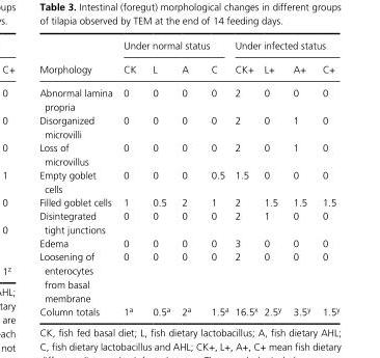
<table><thead><tr><td rowspan="2">Morphology</td><td colspan="4">Under normal status</td><td colspan="4">Under infected status</td></tr><tr><td>CK</td><td>L</td><td>A</td><td>C</td><td>CK+</td><td>L+</td><td>A+</td><td>C+</td></tr></thead><tbody><tr><td>Abnormal lamina propria</td><td>0</td><td>0</td><td>0</td><td>0</td><td>2</td><td>0</td><td>0</td><td>0</td></tr><tr><td>Disorganized microvilli</td><td>0</td><td>0</td><td>0</td><td>0</td><td>2</td><td>0</td><td>1</td><td>0</td></tr><tr><td>Loss of microvillus</td><td>0</td><td>0</td><td>0</td><td>0</td><td>2</td><td>0</td><td>1</td><td>0</td></tr><tr><td>Empty goblet cells</td><td>0</td><td>0</td><td>0</td><td>0.5</td><td>1.5</td><td>0</td><td>0</td><td>0</td></tr><tr><td>Filled goblet cells</td><td>1</td><td>0.5</td><td>2</td><td>1</td><td>2</td><td>1.5</td><td>1.5</td><td>1.5</td></tr><tr><td>Disintegrated tight junctions</td><td>0</td><td>0</td><td>0</td><td>0</td><td>2</td><td>1</td><td>0</td><td>0</td></tr><tr><td>Edema</td><td>0</td><td>0</td><td>0</td><td>0</td><td>3</td><td>0</td><td>0</td><td>0</td></tr><tr><td>Loosening of enterocytes from basal membrane</td><td>0</td><td>0</td><td>0</td><td>0</td><td>2</td><td>0</td><td>0</td><td>0</td></tr><tr><td>Column totals</td><td>1<sup>a</sup></td><td>0.5<sup>a</sup></td><td>2<sup>a</sup></td><td>1.5<sup>a</sup></td><td>16.5<sup>x</sup></td><td>2.5<sup>y</sup></td><td>3.5<sup>y</sup></td><td>1.5<sup>y</sup></td></tr></tbody></table>